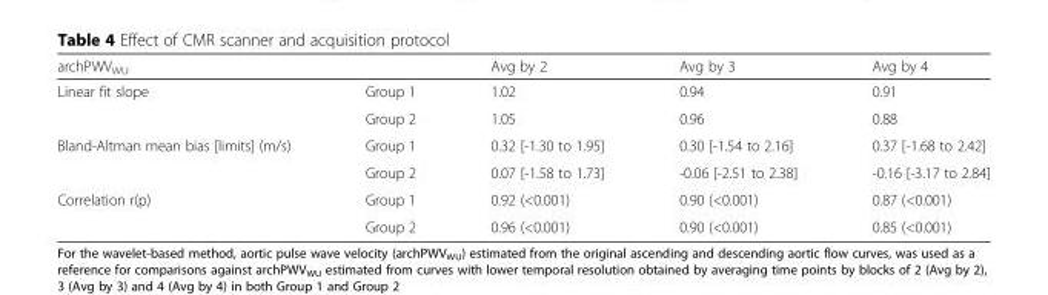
<table><thead><tr><td>archPWV<sub>WU</sub></td><td></td><td>Avg by 2</td><td>Avg by 3</td><td>Avg by 4</td></tr></thead><tbody><tr><td rowspan="2">Linear fit slope</td><td>Group 1</td><td>1.02</td><td>0.94</td><td>0.91</td></tr><tr><td>Group 2</td><td>1.05</td><td>0.96</td><td>0.88</td></tr><tr><td rowspan="2">Bland-Altman mean bias [limits] (m/s)</td><td>Group 1</td><td>0.32 [-1.30 to 1.95]</td><td>0.30 [-1.54 to 2.16]</td><td>0.37 [-1.68 to 2.42]</td></tr><tr><td>Group 2</td><td>0.07 [-1.58 to 1.73]</td><td>-0.06 [-2.51 to 2.38]</td><td>-0.16 [-3.17 to 2.84]</td></tr><tr><td rowspan="2">Correlation r(p)</td><td>Group 1</td><td>0.92 (&lt;0.001)</td><td>0.90 (&lt;0.001)</td><td>0.87 (&lt;0.001)</td></tr><tr><td>Group 2</td><td>0.96 (&lt;0.001)</td><td>0.90 (&lt;0.001)</td><td>0.85 (&lt;0.001)</td></tr></tbody></table>